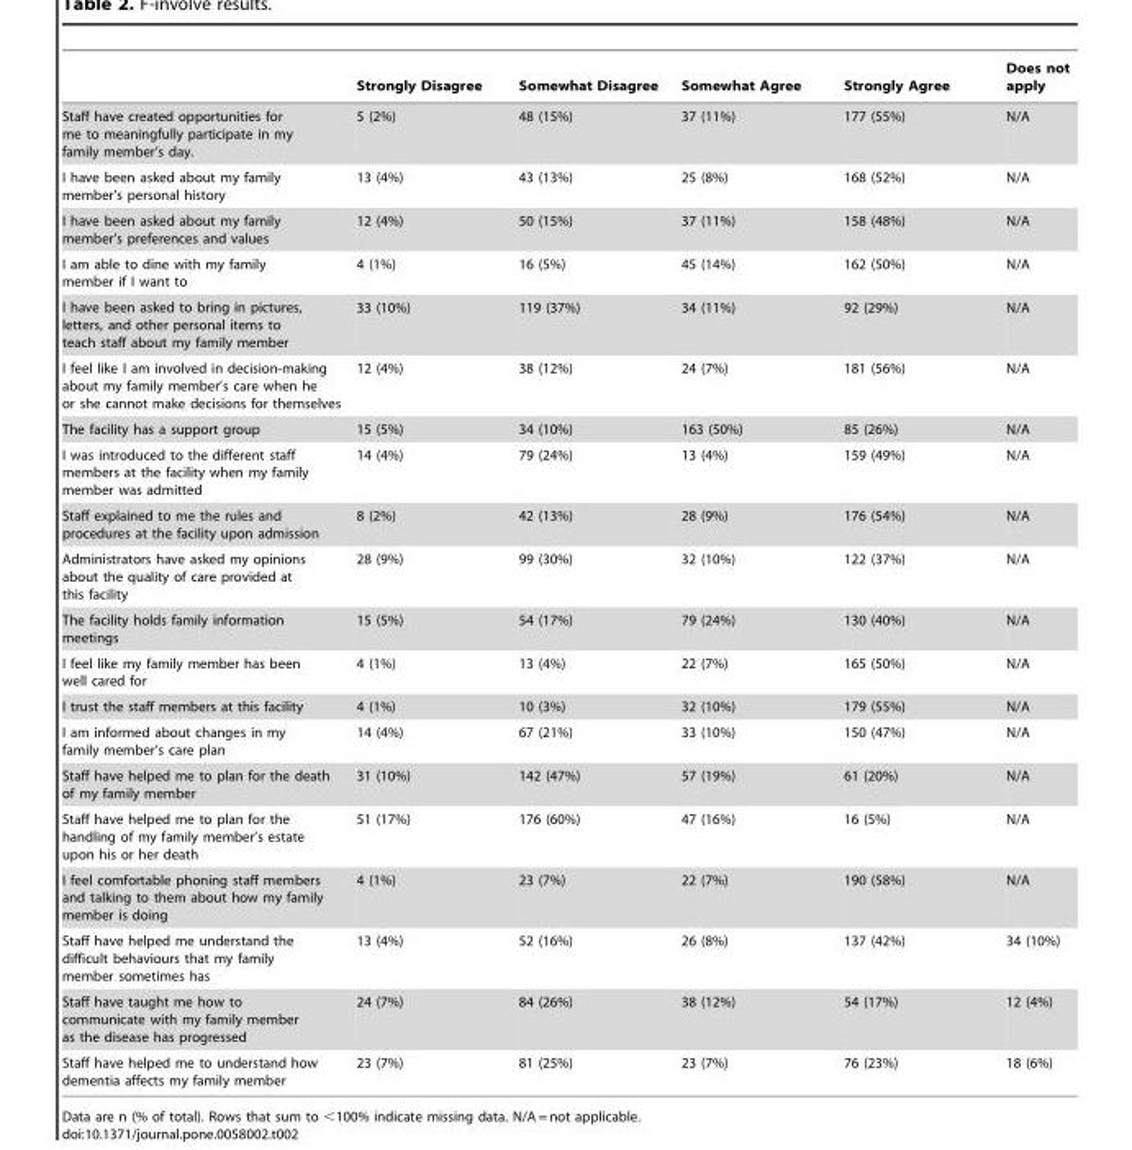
<table><thead><tr><td></td><td>Strongly Disagree</td><td>Somewhat Disagree</td><td>Somewhat Agree</td><td>Strongly Agree</td><td>Does not apply</td></tr></thead><tbody><tr><td>Staff have created opportunities for me to meaningfully participate in my family member’s day.</td><td>5 (2%)</td><td>48 (15%)</td><td>37 (11%)</td><td>177 (55%)</td><td>N/A</td></tr><tr><td>I have been asked about my family member’s personal history</td><td>13 (4%)</td><td>43 (13%)</td><td>25 (8%)</td><td>168 (52%)</td><td>N/A</td></tr><tr><td>I have been asked about my family member’s preferences and values</td><td>12 (4%)</td><td>50 (15%)</td><td>37 (11%)</td><td>158 (48%)</td><td>N/A</td></tr><tr><td>I am able to dine with my family member if I want to</td><td>4 (1%)</td><td>16 (5%)</td><td>45 (14%)</td><td>162 (50%)</td><td>N/A</td></tr><tr><td>I have been asked to bring in pictures, letters, and other personal items to teach staff about my family member</td><td>33 (10%)</td><td>119 (37%)</td><td>34 (11%)</td><td>92 (29%)</td><td>N/A</td></tr><tr><td>I feel like I am involved in decision-making about my family member’s care when he or she cannot make decisions for themselves</td><td>12 (4%)</td><td>38 (12%)</td><td>24 (7%)</td><td>181 (56%)</td><td>N/A</td></tr><tr><td>The facility has a support group</td><td>15 (5%)</td><td>34 (10%)</td><td>163 (50%)</td><td>85 (26%)</td><td>N/A</td></tr><tr><td>I was introduced to the different staff members at the facility when my family member was admitted</td><td>14 (4%)</td><td>79 (24%)</td><td>13 (4%)</td><td>159 (49%)</td><td>N/A</td></tr><tr><td>Staff explained to me the rules and procedures at the facility upon admission</td><td>8 (2%)</td><td>42 (13%)</td><td>28 (9%)</td><td>176 (54%)</td><td>N/A</td></tr><tr><td>Administrators have asked my opinions about the quality of care provided at this facility</td><td>28 (9%)</td><td>99 (30%)</td><td>32 (10%)</td><td>122 (37%)</td><td>N/A</td></tr><tr><td>The facility holds family information meetings</td><td>15 (5%)</td><td>54 (17%)</td><td>79 (24%)</td><td>130 (40%)</td><td>N/A</td></tr><tr><td>I feel like my family member has been well cared for</td><td>4 (1%)</td><td>13 (4%)</td><td>22 (7%)</td><td>165 (50%)</td><td>N/A</td></tr><tr><td>I trust the staff members at this facility</td><td>4 (1%)</td><td>10 (3%)</td><td>32 (10%)</td><td>179 (55%)</td><td>N/A</td></tr><tr><td>I am informed about changes in my family member’s care plan</td><td>14 (4%)</td><td>67 (21%)</td><td>33 (10%)</td><td>150 (47%)</td><td>N/A</td></tr><tr><td>Staff have helped me to plan for the death of my family member</td><td>31 (10%)</td><td>142 (47%)</td><td>57 (19%)</td><td>61 (20%)</td><td>N/A</td></tr><tr><td>Staff have helped me to plan for the handling of my family member’s estate upon his or her death</td><td>51 (17%)</td><td>176 (60%)</td><td>47 (16%)</td><td>16 (5%)</td><td>N/A</td></tr><tr><td>I feel comfortable phoning staff members and talking to them about how my family member is doing</td><td>4 (1%)</td><td>23 (7%)</td><td>22 (7%)</td><td>190 (58%)</td><td>N/A</td></tr><tr><td>Staff have helped me understand the difficult behaviours that my family member sometimes has</td><td>13 (4%)</td><td>52 (16%)</td><td>26 (8%)</td><td>137 (42%)</td><td>34 (10%)</td></tr><tr><td>Staff have taught me how to communicate with my family member as the disease has progressed</td><td>24 (7%)</td><td>84 (26%)</td><td>38 (12%)</td><td>54 (17%)</td><td>12 (4%)</td></tr><tr><td>Staff have helped me to understand how dementia affects my family member</td><td>23 (7%)</td><td>81 (25%)</td><td>23 (7%)</td><td>76 (23%)</td><td>18 (6%)</td></tr></tbody></table>